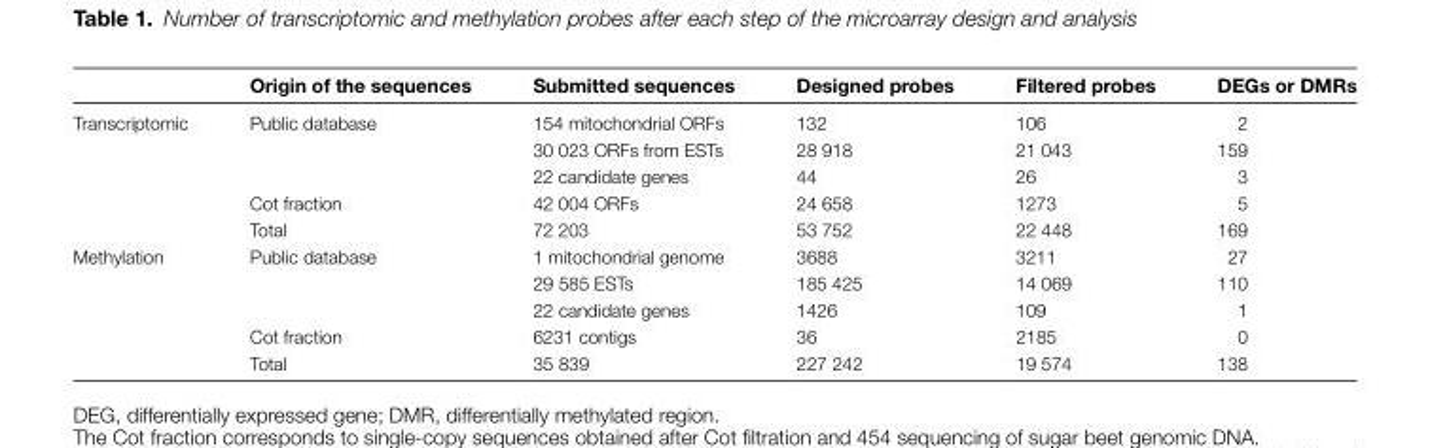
<table><thead><tr><td></td><td>Origin of the sequences</td><td>Submitted sequences</td><td>Designed probes</td><td>Filtered probes</td><td>DEGs or DMRs</td></tr></thead><tbody><tr><td rowspan="5">Transcriptomic</td><td>Public database</td><td>154 mitochondrial ORFs</td><td>132</td><td>106</td><td>2</td></tr><tr><td></td><td>30 023 ORFs from ESTs</td><td>28 918</td><td>21 043</td><td>159</td></tr><tr><td></td><td>22 candidate genes</td><td>44</td><td>26</td><td>3</td></tr><tr><td>Cot fraction</td><td>42 004 ORFs</td><td>24 658</td><td>1273</td><td>5</td></tr><tr><td>Total</td><td>72 203</td><td>53 752</td><td>22 448</td><td>169</td></tr><tr><td rowspan="5">Methylation</td><td>Public database</td><td>1 mitochondrial genome</td><td>3688</td><td>3211</td><td>27</td></tr><tr><td></td><td>29 585 ESTs</td><td>185 425</td><td>14 069</td><td>110</td></tr><tr><td></td><td>22 candidate genes</td><td>1426</td><td>109</td><td>1</td></tr><tr><td>Cot fraction</td><td>6231 contigs</td><td>36</td><td>2185</td><td>0</td></tr><tr><td>Total</td><td>35 839</td><td>227 242</td><td>19 574</td><td>138</td></tr></tbody></table>